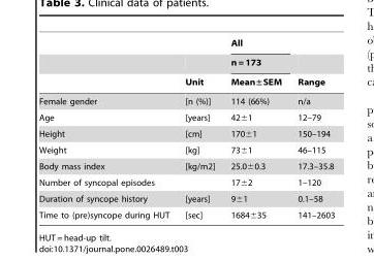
<table><thead><tr><td rowspan="3"></td><td rowspan="3">Unit</td><td rowspan="3">All n = 173 Mean±SEM</td><td rowspan="3">Range</td></tr><tr></tr><tr></tr></thead><tbody><tr><td>Female gender</td><td>[n (%)]</td><td>114 (66%)</td><td>n/a</td></tr><tr><td>Age</td><td>[years]</td><td>42±1</td><td>12–79</td></tr><tr><td>Height</td><td>[cm]</td><td>170±1</td><td>150–194</td></tr><tr><td>Weight</td><td>[kg]</td><td>73±1</td><td>46–115</td></tr><tr><td>Body mass index</td><td>[kg/m2]</td><td>25.0±0.3</td><td>17.3–35.8</td></tr><tr><td>Number of syncopal episodes</td><td></td><td>17±2</td><td>1–120</td></tr><tr><td>Duration of syncope history</td><td>[years]</td><td>9±1</td><td>0.1–58</td></tr><tr><td>Time to (pre)syncope during HUT</td><td>[sec]</td><td>1684±35</td><td>141–2603</td></tr></tbody></table>